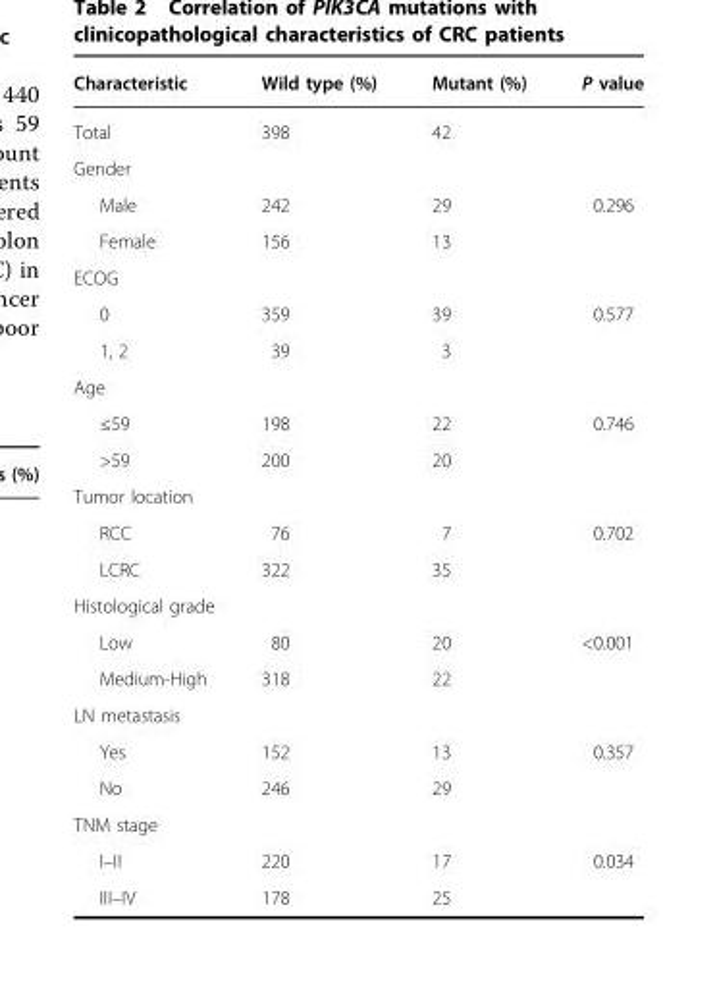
<table><thead><tr><td>Characteristic</td><td>Wild type (%)</td><td>Mutant (%)</td><td>P value</td></tr></thead><tbody><tr><td>Total</td><td>398</td><td>42</td><td></td></tr><tr><td colspan="4">Gender</td></tr><tr><td>Male</td><td>242</td><td>29</td><td rowspan="2">0.296</td></tr><tr><td>Female</td><td>156</td><td>13</td></tr><tr><td colspan="4">ECOG</td></tr><tr><td>0</td><td>359</td><td>39</td><td rowspan="2">0.577</td></tr><tr><td>1, 2</td><td>39</td><td>3</td></tr><tr><td colspan="4">Age</td></tr><tr><td>≤59</td><td>198</td><td>22</td><td rowspan="2">0.746</td></tr><tr><td>&gt;59</td><td>200</td><td>20</td></tr><tr><td colspan="4">Tumor location</td></tr><tr><td>RCC</td><td>76</td><td>7</td><td rowspan="2">0.702</td></tr><tr><td>LCRC</td><td>322</td><td>35</td></tr><tr><td colspan="4">Histological grade</td></tr><tr><td>Low</td><td>80</td><td>20</td><td rowspan="2">&lt;0.001</td></tr><tr><td>Medium-High</td><td>318</td><td>22</td></tr><tr><td colspan="4">LN metastasis</td></tr><tr><td>Yes</td><td>152</td><td>13</td><td rowspan="2">0.357</td></tr><tr><td>No</td><td>246</td><td>29</td></tr><tr><td colspan="4">TNM stage</td></tr><tr><td>I–II</td><td>220</td><td>17</td><td rowspan="2">0.034</td></tr><tr><td>III–IV</td><td>178</td><td>25</td></tr></tbody></table>